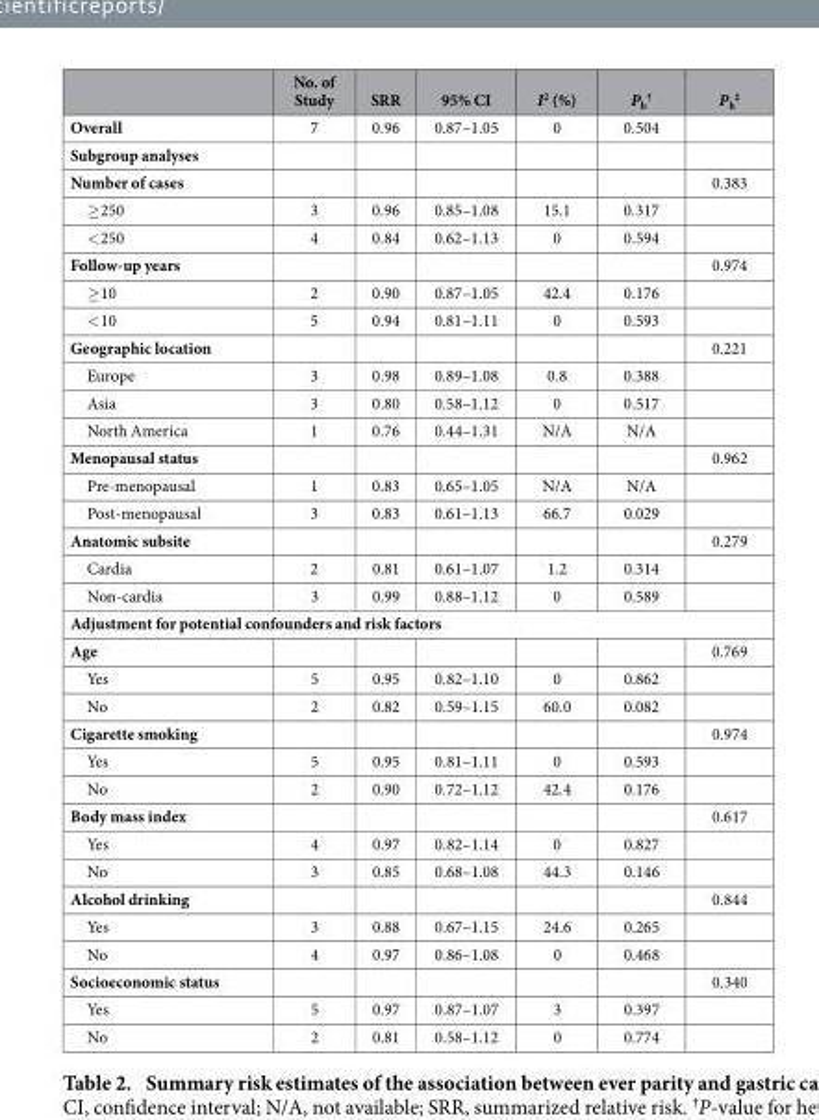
<table><thead><tr><td></td><td>No. of Study</td><td>SRR</td><td>95% CI</td><td>I<sup>2</sup> (%)</td><td>P<sub>h</sub> †</td><td>P<sub>h</sub> ‡</td></tr></thead><tbody><tr><td>Overall</td><td>7</td><td>0.96</td><td>0.87–1.05</td><td>0</td><td>0.504</td><td></td></tr><tr><td colspan="7">Subgroup analyses</td></tr><tr><td>Number of cases</td><td></td><td></td><td></td><td></td><td></td><td>0.383</td></tr><tr><td>≥ 250</td><td>3</td><td>0.96</td><td>0.85–1.08</td><td>15.1</td><td>0.317</td><td></td></tr><tr><td>&lt; 250</td><td>4</td><td>0.84</td><td>0.62–1.13</td><td>0</td><td>0.594</td><td></td></tr><tr><td>Follow-up years</td><td></td><td></td><td></td><td></td><td></td><td>0.974</td></tr><tr><td>≥ 10</td><td>2</td><td>0.90</td><td>0.87–1.05</td><td>42.4</td><td>0.176</td><td></td></tr><tr><td>&lt; 10</td><td>5</td><td>0.94</td><td>0.81–1.11</td><td>0</td><td>0.593</td><td></td></tr><tr><td>Geographic location</td><td></td><td></td><td></td><td></td><td></td><td>0.221</td></tr><tr><td>Europe</td><td>3</td><td>0.98</td><td>0.89–1.08</td><td>0.8</td><td>0.388</td><td></td></tr><tr><td>Asia</td><td>3</td><td>0.80</td><td>0.58–1.12</td><td>0</td><td>0.517</td><td></td></tr><tr><td>North America</td><td>1</td><td>0.76</td><td>0.44–1.31</td><td>N/A</td><td>N/A</td><td></td></tr><tr><td>Menopausal status</td><td></td><td></td><td></td><td></td><td></td><td>0.962</td></tr><tr><td>Pre-menopausal</td><td>1</td><td>0.83</td><td>0.65–1.05</td><td>N/A</td><td>N/A</td><td></td></tr><tr><td>Post-menopausal</td><td>3</td><td>0.83</td><td>0.61–1.13</td><td>66.7</td><td>0.029</td><td></td></tr><tr><td>Anatomic subsite</td><td></td><td></td><td></td><td></td><td></td><td>0.279</td></tr><tr><td>Cardia</td><td>2</td><td>0.81</td><td>0.61–1.07</td><td>1.2</td><td>0.314</td><td></td></tr><tr><td>Non-cardia</td><td>3</td><td>0.99</td><td>0.88–1.12</td><td>0</td><td>0.589</td><td></td></tr><tr><td colspan="7">Adjustment for potential confounders and risk factors</td></tr><tr><td>Age</td><td></td><td></td><td></td><td></td><td></td><td>0.769</td></tr><tr><td>Yes</td><td>5</td><td>0.95</td><td>0.82–1.10</td><td>0</td><td>0.862</td><td></td></tr><tr><td>No</td><td>2</td><td>0.82</td><td>0.59–1.15</td><td>60.0</td><td>0.082</td><td></td></tr><tr><td>Cigarette smoking</td><td></td><td></td><td></td><td></td><td></td><td>0.974</td></tr><tr><td>Yes</td><td>5</td><td>0.95</td><td>0.81–1.11</td><td>0</td><td>0.593</td><td></td></tr><tr><td>No</td><td>2</td><td>0.90</td><td>0.72–1.12</td><td>42.4</td><td>0.176</td><td></td></tr><tr><td>Body mass index</td><td></td><td></td><td></td><td></td><td></td><td>0.617</td></tr><tr><td>Yes</td><td>4</td><td>0.97</td><td>0.82–1.14</td><td>0</td><td>0.827</td><td></td></tr><tr><td>No</td><td>3</td><td>0.85</td><td>0.68–1.08</td><td>44.3</td><td>0.146</td><td></td></tr><tr><td>Alcohol drinking</td><td></td><td></td><td></td><td></td><td></td><td>0.844</td></tr><tr><td>Yes</td><td>3</td><td>0.88</td><td>0.67–1.15</td><td>24.6</td><td>0.265</td><td></td></tr><tr><td>No</td><td>4</td><td>0.97</td><td>0.86–1.08</td><td>0</td><td>0.468</td><td></td></tr><tr><td>Socioeconomic status</td><td></td><td></td><td></td><td></td><td></td><td>0.340</td></tr><tr><td>Yes</td><td>5</td><td>0.97</td><td>0.87–1.07</td><td>3</td><td>0.397</td><td></td></tr><tr><td>No</td><td>2</td><td>0.81</td><td>0.58–1.12</td><td>0</td><td>0.774</td><td></td></tr></tbody></table>